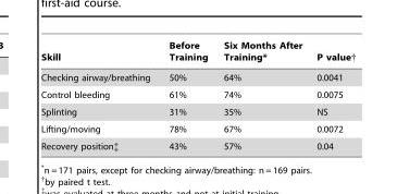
<table><thead><tr><td>Skill</td><td>Before Training</td><td>Six Months After Training*</td><td>P value†</td></tr></thead><tbody><tr><td>Checking airway/breathing</td><td>50%</td><td>64%</td><td>0.0041</td></tr><tr><td>Control bleeding</td><td>61%</td><td>74%</td><td>0.0075</td></tr><tr><td>Splinting</td><td>31%</td><td>35%</td><td>NS</td></tr><tr><td>Lifting/moving</td><td>78%</td><td>67%</td><td>0.0072</td></tr><tr><td>Recovery position‡</td><td>43%</td><td>57%</td><td>0.04</td></tr></tbody></table>